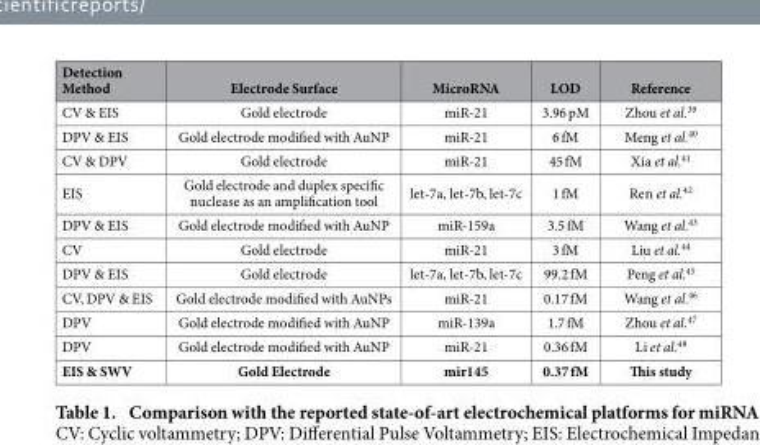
<table><thead><tr><td>Detection Method</td><td>Electrode Surface</td><td>MicroRNA</td><td>LOD</td><td>Reference</td></tr></thead><tbody><tr><td>CV &amp; EIS</td><td>Gold electrode</td><td>miR-21</td><td>3.96 pM</td><td>Zhou et al.<sup>39</sup></td></tr><tr><td>DPV &amp; EIS</td><td>Gold electrode modified with AuNP</td><td>miR-21</td><td>6 fM</td><td>Meng et al.<sup>40</sup></td></tr><tr><td>CV &amp; DPV</td><td>Gold electrode</td><td>miR-21</td><td>45 fM</td><td>Xia et al.<sup>41</sup></td></tr><tr><td>EIS</td><td>Gold electrode and duplex specific nuclease as an amplification tool</td><td>let-7a, let-7b, let-7c</td><td>1 fM</td><td>Ren et al.<sup>42</sup></td></tr><tr><td>DPV &amp; EIS</td><td>Gold electrode modified with AuNP</td><td>miR-159a</td><td>3.5 fM</td><td>Wang et al.<sup>43</sup></td></tr><tr><td>CV</td><td>Gold electrode</td><td>miR-21</td><td>3 fM</td><td>Liu et al.<sup>44</sup></td></tr><tr><td>DPV &amp; EIS</td><td>Gold electrode</td><td>let-7a, let-7b, let-7c</td><td>99.2 fM</td><td>Peng et al.<sup>45</sup></td></tr><tr><td>CV, DPV &amp; EIS</td><td>Gold electrode modified with AuNPs</td><td>miR-21</td><td>0.17 fM</td><td>Wang et al.<sup>46</sup></td></tr><tr><td>DPV</td><td>Gold electrode modified with AuNP</td><td>miR-139a</td><td>1.7 fM</td><td>Zhou et al.<sup>47</sup></td></tr><tr><td>DPV</td><td>Gold electrode modified with AuNP</td><td>miR-21</td><td>0.36 fM</td><td>Li et al.<sup>48</sup></td></tr><tr><td>EIS &amp; SWV</td><td>Gold Electrode</td><td>mir145</td><td>0.37 fM</td><td>This study</td></tr></tbody></table>